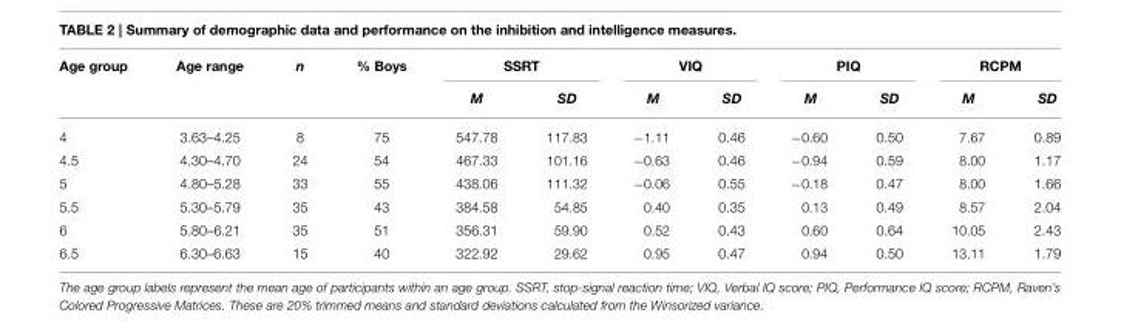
<table><thead><tr><td rowspan="2">Age group</td><td rowspan="2">Age range</td><td rowspan="2">n</td><td rowspan="2">% Boys</td><td colspan="2">SSRT</td><td colspan="2">VIQ</td><td colspan="2">PIQ</td><td colspan="2">RCPM</td></tr><tr><td>M</td><td>SD</td><td>M</td><td>SD</td><td>M</td><td>SD</td><td>M</td><td>SD</td></tr></thead><tbody><tr><td>4</td><td>3.63–4.25</td><td>8</td><td>75</td><td>547.78</td><td>117.83</td><td>−1.11</td><td>0.46</td><td>−0.60</td><td>0.50</td><td>7.67</td><td>0.89</td></tr><tr><td>4.5</td><td>4.30–4.70</td><td>24</td><td>54</td><td>467.33</td><td>101.16</td><td>−0.63</td><td>0.46</td><td>−0.94</td><td>0.59</td><td>8.00</td><td>1.17</td></tr><tr><td>5</td><td>4.80–5.28</td><td>33</td><td>55</td><td>438.06</td><td>111.32</td><td>−0.06</td><td>0.55</td><td>−0.18</td><td>0.47</td><td>8.00</td><td>1.66</td></tr><tr><td>5.5</td><td>5.30–5.79</td><td>35</td><td>43</td><td>384.58</td><td>54.85</td><td>0.40</td><td>0.35</td><td>0.13</td><td>0.49</td><td>8.57</td><td>2.04</td></tr><tr><td>6</td><td>5.80–6.21</td><td>35</td><td>51</td><td>356.31</td><td>59.90</td><td>0.52</td><td>0.43</td><td>0.60</td><td>0.64</td><td>10.05</td><td>2.43</td></tr><tr><td>6.5</td><td>6.30–6.63</td><td>15</td><td>40</td><td>322.92</td><td>29.62</td><td>0.95</td><td>0.47</td><td>0.94</td><td>0.50</td><td>13.11</td><td>1.79</td></tr></tbody></table>